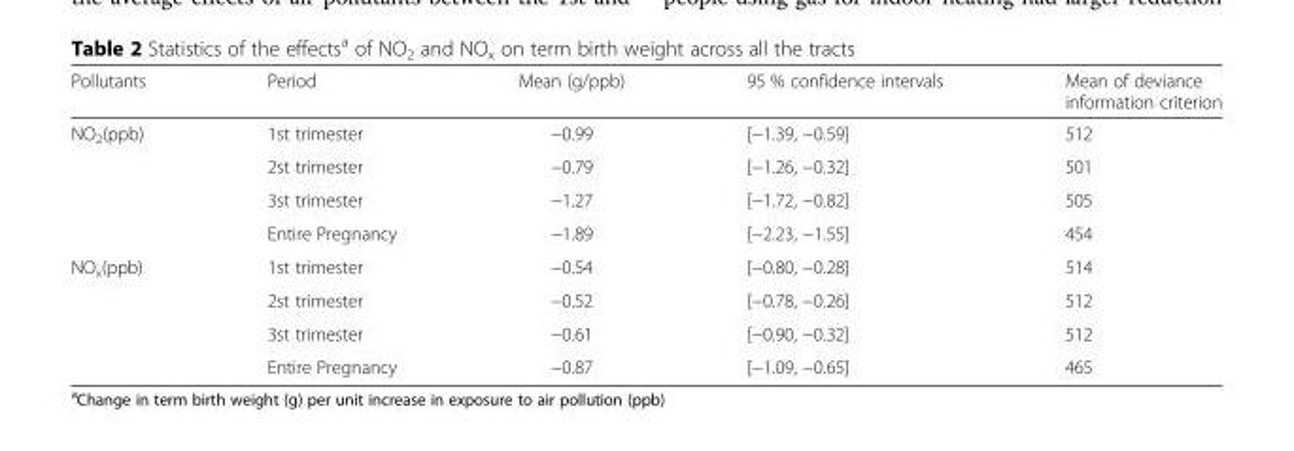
<table><thead><tr><td>Pollutants</td><td>Period</td><td>Mean (g/ppb)</td><td>95 % confidence intervals</td><td>Mean of deviance information criterion</td></tr></thead><tbody><tr><td rowspan="4">NO<sub>2</sub>(ppb)</td><td>1st trimester</td><td>−0.99</td><td>[−1.39, −0.59]</td><td>512</td></tr><tr><td>2st trimester</td><td>−0.79</td><td>[−1.26, −0.32]</td><td>501</td></tr><tr><td>3st trimester</td><td>−1.27</td><td>[−1.72, −0.82]</td><td>505</td></tr><tr><td>Entire Pregnancy</td><td>−1.89</td><td>[−2.23, −1.55]</td><td>454</td></tr><tr><td rowspan="4">NO<sub>x</sub>(ppb)</td><td>1st trimester</td><td>−0.54</td><td>[−0.80, −0.28]</td><td>514</td></tr><tr><td>2st trimester</td><td>−0.52</td><td>[−0.78, −0.26]</td><td>512</td></tr><tr><td>3st trimester</td><td>−0.61</td><td>[−0.90, −0.32]</td><td>512</td></tr><tr><td>Entire Pregnancy</td><td>−0.87</td><td>[−1.09, −0.65]</td><td>465</td></tr></tbody></table>